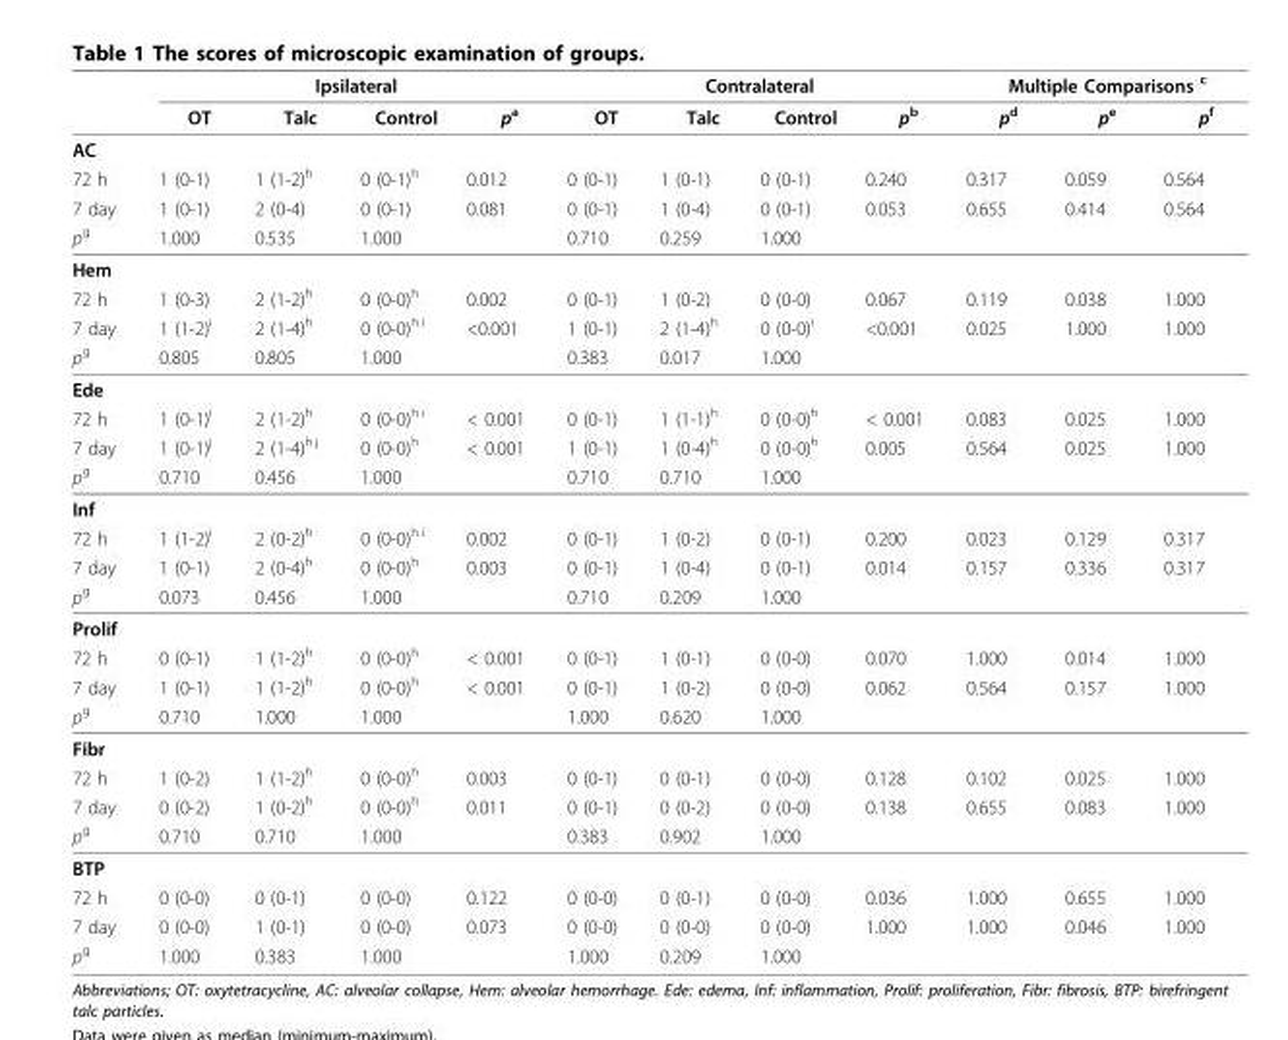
<table><thead><tr><td rowspan="2"></td><td colspan="4">Ipsilateral</td><td colspan="4">Contralateral</td><td colspan="3">Multiple Comparisons <sup>c</sup></td></tr><tr><td>OT</td><td>Talc</td><td>Control</td><td>p<sup>a</sup></td><td>OT</td><td>Talc</td><td>Control</td><td>p<sup>b</sup></td><td>p<sup>d</sup></td><td>p<sup>e</sup></td><td>p<sup>f</sup></td></tr></thead><tbody><tr><td colspan="12">AC</td></tr><tr><td>72 h</td><td>1 (0-1)</td><td>1 (1-2)<sup>h</sup></td><td>0 (0-1)<sup>h</sup></td><td>0.012</td><td>0 (0-1)</td><td>1 (0-1)</td><td>0 (0-1)</td><td>0.240</td><td>0.317</td><td>0.059</td><td>0.564</td></tr><tr><td>7 day</td><td>1 (0-1)</td><td>2 (0-4)</td><td>0 (0-1)</td><td>0.081</td><td>0 (0-1)</td><td>1 (0-4)</td><td>0 (0-1)</td><td>0.053</td><td>0.655</td><td>0.414</td><td>0.564</td></tr><tr><td>p<sup>g</sup></td><td>1.000</td><td>0.535</td><td>1.000</td><td></td><td>0.710</td><td>0.259</td><td>1.000</td><td></td><td></td><td></td><td></td></tr><tr><td colspan="12">Hem</td></tr><tr><td>72 h</td><td>1 (0-3)</td><td>2 (1-2)<sup>h</sup></td><td>0 (0-0)<sup>h</sup></td><td>0.002</td><td>0 (0-1)</td><td>1 (0-2)</td><td>0 (0-0)</td><td>0.067</td><td>0.119</td><td>0.038</td><td>1.000</td></tr><tr><td>7 day</td><td>1 (1-2)<sup>i</sup></td><td>2 (1-4)<sup>h</sup></td><td>0 (0-0)<sup>h.i</sup></td><td>&lt;0.001</td><td>1 (0-1)</td><td>2 (1-4)<sup>h</sup></td><td>0 (0-0)<sup>i</sup></td><td>&lt;0.001</td><td>0.025</td><td>1.000</td><td>1.000</td></tr><tr><td>p<sup>g</sup></td><td>0.805</td><td>0.805</td><td>1.000</td><td></td><td>0.383</td><td>0.017</td><td>1.000</td><td></td><td></td><td></td><td></td></tr><tr><td colspan="12">Ede</td></tr><tr><td>72 h</td><td>1 (0-1)<sup>i</sup></td><td>2 (1-2)<sup>h</sup></td><td>0 (0-0)<sup>h.i</sup></td><td>&lt; 0.001</td><td>0 (0-1)</td><td>1 (1-1)<sup>h</sup></td><td>0 (0-0)<sup>h</sup></td><td>&lt; 0.001</td><td>0.083</td><td>0.025</td><td>1.000</td></tr><tr><td>7 day</td><td>1 (0-1)<sup>j</sup></td><td>2 (1-4)<sup>h.j</sup></td><td>0 (0-0)<sup>h</sup></td><td>&lt; 0.001</td><td>1 (0-1)</td><td>1 (0-4)<sup>h</sup></td><td>0 (0-0)<sup>h</sup></td><td>0.005</td><td>0.564</td><td>0.025</td><td>1.000</td></tr><tr><td>p<sup>g</sup></td><td>0.710</td><td>0.456</td><td>1.000</td><td></td><td>0.710</td><td>0.710</td><td>1.000</td><td></td><td></td><td></td><td></td></tr><tr><td colspan="12">Inf</td></tr><tr><td>72 h</td><td>1 (1-2)<sup>i</sup></td><td>2 (0-2)<sup>h</sup></td><td>0 (0-0)<sup>h.i</sup></td><td>0.002</td><td>0 (0-1)</td><td>1 (0-2)</td><td>0 (0-1)</td><td>0.200</td><td>0.023</td><td>0.129</td><td>0.317</td></tr><tr><td>7 day</td><td>1 (0-1)</td><td>2 (0-4)<sup>h</sup></td><td>0 (0-0)<sup>h</sup></td><td>0.003</td><td>0 (0-1)</td><td>1 (0-4)</td><td>0 (0-1)</td><td>0.014</td><td>0.157</td><td>0.336</td><td>0.317</td></tr><tr><td>p<sup>g</sup></td><td>0.073</td><td>0.456</td><td>1.000</td><td></td><td>0.710</td><td>0.209</td><td>1.000</td><td></td><td></td><td></td><td></td></tr><tr><td colspan="12">Prolif</td></tr><tr><td>72 h</td><td>0 (0-1)</td><td>1 (1-2)<sup>h</sup></td><td>0 (0-0)<sup>h</sup></td><td>&lt; 0.001</td><td>0 (0-1)</td><td>1 (0-1)</td><td>0 (0-0)</td><td>0.070</td><td>1.000</td><td>0.014</td><td>1.000</td></tr><tr><td>7 day</td><td>1 (0-1)</td><td>1 (1-2)<sup>h</sup></td><td>0 (0-0)<sup>h</sup></td><td>&lt; 0.001</td><td>0 (0-1)</td><td>1 (0-2)</td><td>0 (0-0)</td><td>0.062</td><td>0.564</td><td>0.157</td><td>1.000</td></tr><tr><td>p<sup>g</sup></td><td>0.710</td><td>1.000</td><td>1.000</td><td></td><td>1.000</td><td>0.620</td><td>1.000</td><td></td><td></td><td></td><td></td></tr><tr><td colspan="12">Fibr</td></tr><tr><td>72 h</td><td>1 (0-2)</td><td>1 (1-2)<sup>h</sup></td><td>0 (0-0)<sup>h</sup></td><td>0.003</td><td>0 (0-1)</td><td>0 (0-1)</td><td>0 (0-0)</td><td>0.128</td><td>0.102</td><td>0.025</td><td>1.000</td></tr><tr><td>7 day</td><td>0 (0-2)</td><td>1 (0-2)<sup>h</sup></td><td>0 (0-0)<sup>h</sup></td><td>0.011</td><td>0 (0-1)</td><td>0 (0-2)</td><td>0 (0-0)</td><td>0.138</td><td>0.655</td><td>0.083</td><td>1.000</td></tr><tr><td>p<sup>g</sup></td><td>0.710</td><td>0.710</td><td>1.000</td><td></td><td>0.383</td><td>0.902</td><td>1.000</td><td></td><td></td><td></td><td></td></tr><tr><td colspan="12">BTP</td></tr><tr><td>72 h</td><td>0 (0-0)</td><td>0 (0-1)</td><td>0 (0-0)</td><td>0.122</td><td>0 (0-0)</td><td>0 (0-1)</td><td>0 (0-0)</td><td>0.036</td><td>1.000</td><td>0.655</td><td>1.000</td></tr><tr><td>7 day</td><td>0 (0-0)</td><td>1 (0-1)</td><td>0 (0-0)</td><td>0.073</td><td>0 (0-0)</td><td>0 (0-0)</td><td>0 (0-0)</td><td>1.000</td><td>1.000</td><td>0.046</td><td>1.000</td></tr><tr><td>p<sup>g</sup></td><td>1.000</td><td>0.383</td><td>1.000</td><td></td><td>1.000</td><td>0.209</td><td>1.000</td><td></td><td></td><td></td><td></td></tr></tbody></table>